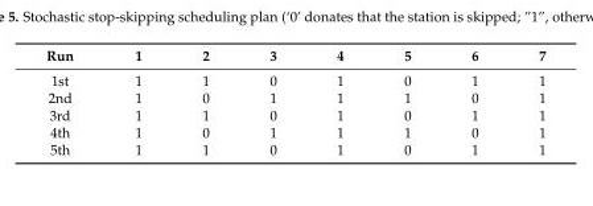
<table><thead><tr><td>Run</td><td>1</td><td>2</td><td>3</td><td>4</td><td>5</td><td>6</td><td>7</td></tr></thead><tbody><tr><td>1st</td><td>1</td><td>1</td><td>0</td><td>1</td><td>0</td><td>1</td><td>1</td></tr><tr><td>2nd</td><td>1</td><td>0</td><td>1</td><td>1</td><td>1</td><td>0</td><td>1</td></tr><tr><td>3rd</td><td>1</td><td>1</td><td>0</td><td>1</td><td>0</td><td>1</td><td>1</td></tr><tr><td>4th</td><td>1</td><td>0</td><td>1</td><td>1</td><td>1</td><td>0</td><td>1</td></tr><tr><td>5th</td><td>1</td><td>1</td><td>0</td><td>1</td><td>0</td><td>1</td><td>1</td></tr></tbody></table>